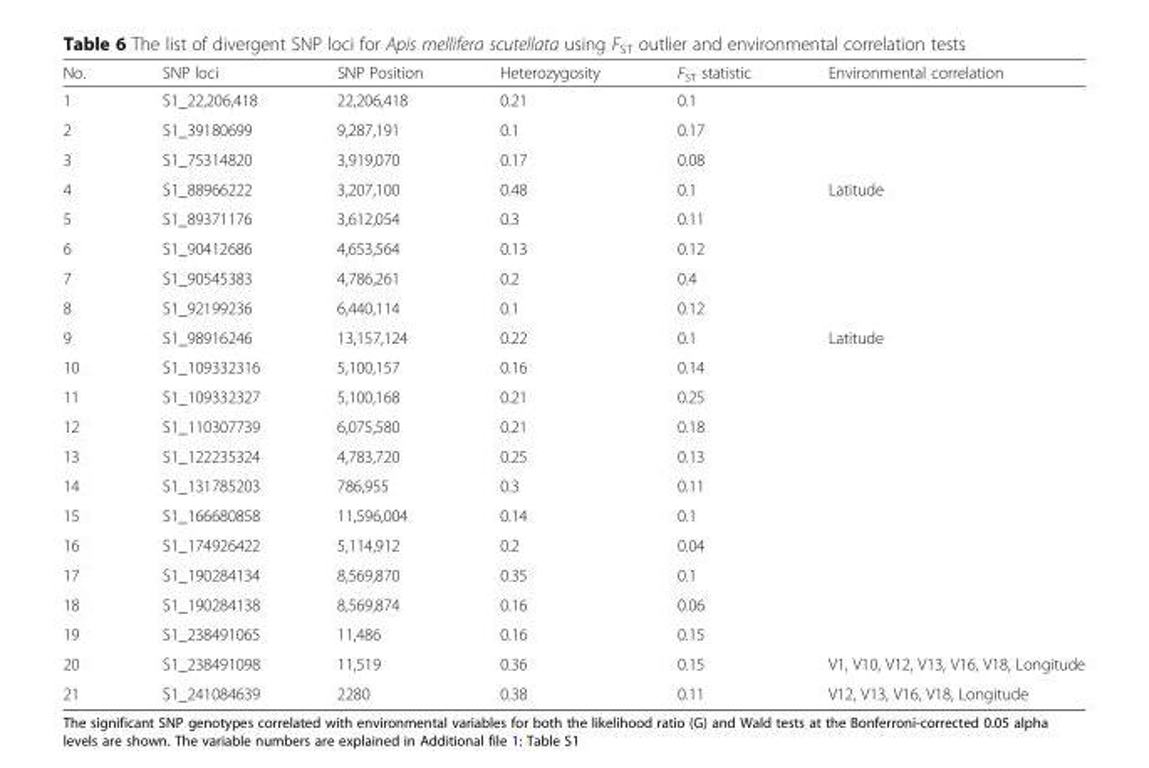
<table><thead><tr><td>No.</td><td>SNP loci</td><td>SNP Position</td><td>Heterozygosity</td><td>F<sub>ST</sub> statistic</td><td>Environmental correlation</td></tr></thead><tbody><tr><td>1</td><td>S1_22,206,418</td><td>22,206,418</td><td>0.21</td><td>0.1</td><td></td></tr><tr><td>2</td><td>S1_39180699</td><td>9,287,191</td><td>0.1</td><td>0.17</td><td></td></tr><tr><td>3</td><td>S1_75314820</td><td>3,919,070</td><td>0.17</td><td>0.08</td><td></td></tr><tr><td>4</td><td>S1_88966222</td><td>3,207,100</td><td>0.48</td><td>0.1</td><td>Latitude</td></tr><tr><td>5</td><td>S1_89371176</td><td>3,612,054</td><td>0.3</td><td>0.11</td><td></td></tr><tr><td>6</td><td>S1_90412686</td><td>4,653,564</td><td>0.13</td><td>0.12</td><td></td></tr><tr><td>7</td><td>S1_90545383</td><td>4,786,261</td><td>0.2</td><td>0.4</td><td></td></tr><tr><td>8</td><td>S1_92199236</td><td>6,440,114</td><td>0.1</td><td>0.12</td><td></td></tr><tr><td>9</td><td>S1_98916246</td><td>13,157,124</td><td>0.22</td><td>0.1</td><td>Latitude</td></tr><tr><td>10</td><td>S1_109332316</td><td>5,100,157</td><td>0.16</td><td>0.14</td><td></td></tr><tr><td>11</td><td>S1_109332327</td><td>5,100,168</td><td>0.21</td><td>0.25</td><td></td></tr><tr><td>12</td><td>S1_110307739</td><td>6,075,580</td><td>0.21</td><td>0.18</td><td></td></tr><tr><td>13</td><td>S1_122235324</td><td>4,783,720</td><td>0.25</td><td>0.13</td><td></td></tr><tr><td>14</td><td>S1_131785203</td><td>786,955</td><td>0.3</td><td>0.11</td><td></td></tr><tr><td>15</td><td>S1_166680858</td><td>11,596,004</td><td>0.14</td><td>0.1</td><td></td></tr><tr><td>16</td><td>S1_174926422</td><td>5,114,912</td><td>0.2</td><td>0.04</td><td></td></tr><tr><td>17</td><td>S1_190284134</td><td>8,569,870</td><td>0.35</td><td>0.1</td><td></td></tr><tr><td>18</td><td>S1_190284138</td><td>8,569,874</td><td>0.16</td><td>0.06</td><td></td></tr><tr><td>19</td><td>S1_238491065</td><td>11,486</td><td>0.16</td><td>0.15</td><td></td></tr><tr><td>20</td><td>S1_238491098</td><td>11,519</td><td>0.36</td><td>0.15</td><td>V1, V10, V12, V13, V16, V18, Longitude</td></tr><tr><td>21</td><td>S1_241084639</td><td>2280</td><td>0.38</td><td>0.11</td><td>V12, V13, V16, V18, Longitude</td></tr></tbody></table>